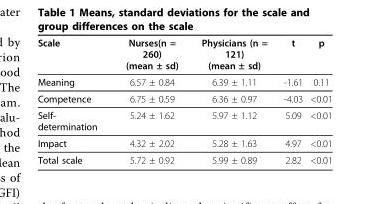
<table><thead><tr><td>Scale</td><td>Nurses(n = 260) (mean ± sd)</td><td>Physicians (n = 121) (mean ± sd)</td><td>t</td><td>p</td></tr></thead><tbody><tr><td>Meaning</td><td>6.57 ± 0.84</td><td>6.39 ± 1.11</td><td>-1.61</td><td>0.11</td></tr><tr><td>Competence</td><td>6.75 ± 0.59</td><td>6.36 ± 0.97</td><td>-4.03</td><td>&lt;0.01</td></tr><tr><td>Self- determination</td><td>5.24 ± 1.62</td><td>5.97 ± 1.12</td><td>5.09</td><td>&lt;0.01</td></tr><tr><td>Impact</td><td>4.32 ± 2.02</td><td>5.28 ± 1.63</td><td>4.97</td><td>&lt;0.01</td></tr><tr><td>Total scale</td><td>5.72 ± 0.92</td><td>5.99 ± 0.89</td><td>2.82</td><td>&lt;0.01</td></tr></tbody></table>